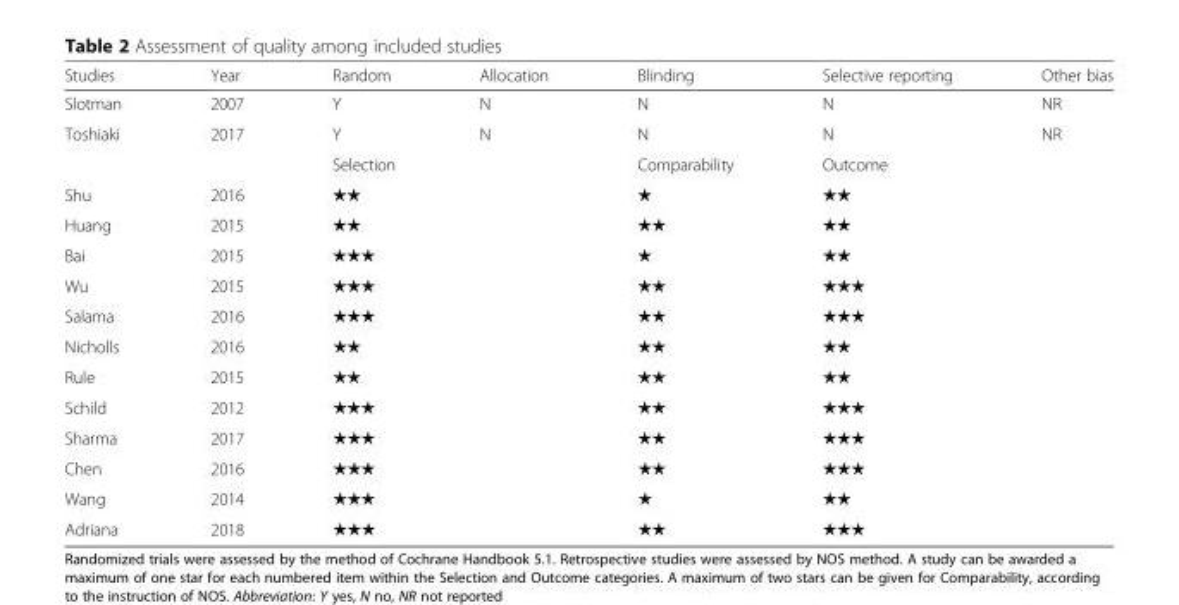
<table><thead><tr><td>Studies</td><td>Year</td><td>Random</td><td>Allocation</td><td>Blinding</td><td>Selective reporting</td><td>Other bias</td></tr></thead><tbody><tr><td>Slotman</td><td>2007</td><td>Y</td><td>N</td><td>N</td><td>N</td><td>NR</td></tr><tr><td rowspan="2">Toshiaki</td><td>2017</td><td>Y</td><td>N</td><td>N</td><td>N</td><td>NR</td></tr><tr><td></td><td colspan="2">Selection</td><td>Comparability</td><td colspan="2">Outcome</td></tr><tr><td>Shu</td><td>2016</td><td colspan="2">★★</td><td>★</td><td colspan="2">★★</td></tr><tr><td>Huang</td><td>2015</td><td colspan="2">★★</td><td>★★</td><td colspan="2">★★</td></tr><tr><td>Bai</td><td>2015</td><td colspan="2">★★★</td><td>★</td><td colspan="2">★★</td></tr><tr><td>Wu</td><td>2015</td><td colspan="2">★★★</td><td>★★</td><td colspan="2">★★★</td></tr><tr><td>Salama</td><td>2016</td><td colspan="2">★★★</td><td>★★</td><td colspan="2">★★★</td></tr><tr><td>Nicholls</td><td>2016</td><td colspan="2">★★</td><td>★★</td><td colspan="2">★★</td></tr><tr><td>Rule</td><td>2015</td><td colspan="2">★★</td><td>★★</td><td colspan="2">★★</td></tr><tr><td>Schild</td><td>2012</td><td colspan="2">★★★</td><td>★★</td><td colspan="2">★★★</td></tr><tr><td>Sharma</td><td>2017</td><td colspan="2">★★★</td><td>★★</td><td colspan="2">★★★</td></tr><tr><td>Chen</td><td>2016</td><td colspan="2">★★★</td><td>★★</td><td colspan="2">★★★</td></tr><tr><td>Wang</td><td>2014</td><td colspan="2">★★★</td><td>★</td><td colspan="2">★★</td></tr><tr><td>Adriana</td><td>2018</td><td colspan="2">★★★</td><td>★★</td><td colspan="2">★★★</td></tr></tbody></table>